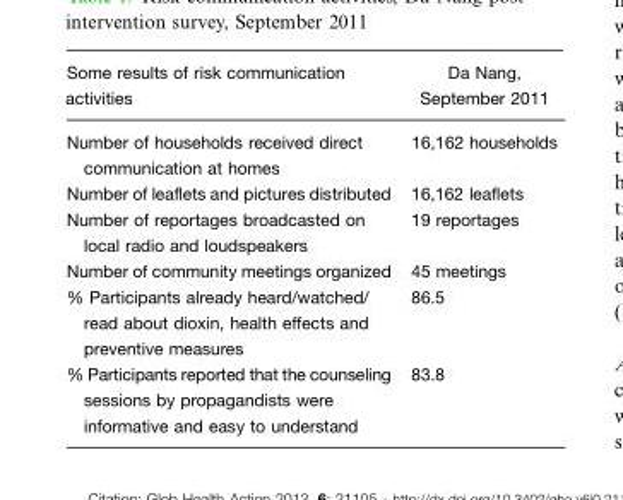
<table><thead><tr><td>Some results of risk communication activities</td><td>Da Nang, September 2011</td></tr></thead><tbody><tr><td>Number of households received direct communication at homes</td><td>16,162 households</td></tr><tr><td>Number of leaflets and pictures distributed</td><td>16,162 leaflets</td></tr><tr><td>Number of reportages broadcasted on local radio and loudspeakers</td><td>19 reportages</td></tr><tr><td>Number of community meetings organized</td><td>45 meetings</td></tr><tr><td>% Participants already heard/watched/ read about dioxin, health effects and preventive measures</td><td>86.5</td></tr><tr><td>% Participants reported that the counseling sessions by propagandists were informative and easy to understand</td><td>83.8</td></tr></tbody></table>